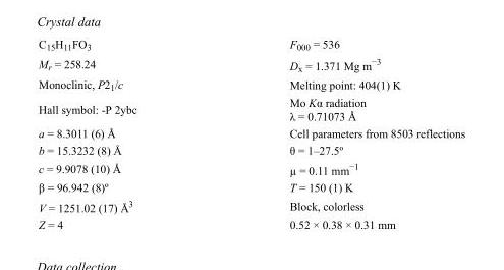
<table><tbody><tr><td>C<sub>15</sub>H<sub>11</sub>FO<sub>3</sub></td><td>F<sub>000</sub> = 536</td></tr><tr><td>M<sub>r</sub> = 258.24</td><td>D<sub>x</sub> = 1.371 Mg m<sup>−3</sup></td></tr><tr><td>Monoclinic, P2<sub>1</sub>/c</td><td>Melting point: 404(1) K</td></tr><tr><td>Hall symbol: -P 2ybc</td><td>Mo Kα radiation λ = 0.71073 Å</td></tr><tr><td>a = 8.3011 (6) Å</td><td>Cell parameters from 8503 reflections</td></tr><tr><td>b = 15.3232 (8) Å</td><td>θ = 1–27.5º</td></tr><tr><td>c = 9.9078 (10) Å</td><td>µ = 0.11 mm<sup>−1</sup></td></tr><tr><td>β = 96.942 (8)º</td><td>T = 150 (1) K</td></tr><tr><td>V = 1251.02 (17) Å<sup>3</sup></td><td>Block, colorless</td></tr><tr><td>Z = 4</td><td>0.52 × 0.38 × 0.31 mm</td></tr></tbody></table>